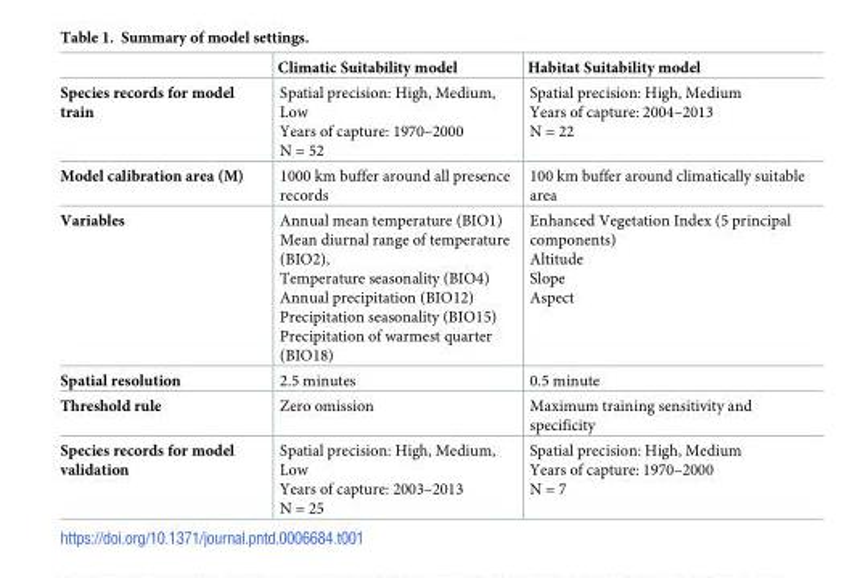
<table><thead><tr><td></td><td>Climatic Suitability model</td><td>Habitat Suitability model</td></tr></thead><tbody><tr><td>Species records for model train</td><td>Spatial precision: High, Medium, Low Years of capture: 1970–2000 N = 52</td><td>Spatial precision: High, Medium Years of capture: 2004–2013 N = 22</td></tr><tr><td>Model calibration area (M)</td><td>1000 km buffer around all presence records</td><td>100 km buffer around climatically suitable area</td></tr><tr><td>Variables</td><td>Annual mean temperature (BIO1) Mean diurnal range of temperature (BIO2), Temperature seasonality (BIO4) Annual precipitation (BIO12) Precipitation seasonality (BIO15) Precipitation of warmest quarter (BIO18)</td><td>Enhanced Vegetation Index (5 principal components) Altitude Slope Aspect</td></tr><tr><td>Spatial resolution</td><td>2.5 minutes</td><td>0.5 minute</td></tr><tr><td>Threshold rule</td><td>Zero omission</td><td>Maximum training sensitivity and specificity</td></tr><tr><td>Species records for model validation</td><td>Spatial precision: High, Medium, Low Years of capture: 2003–2013 N = 25</td><td>Spatial precision: High, Medium Years of capture: 1970–2000 N = 7</td></tr></tbody></table>